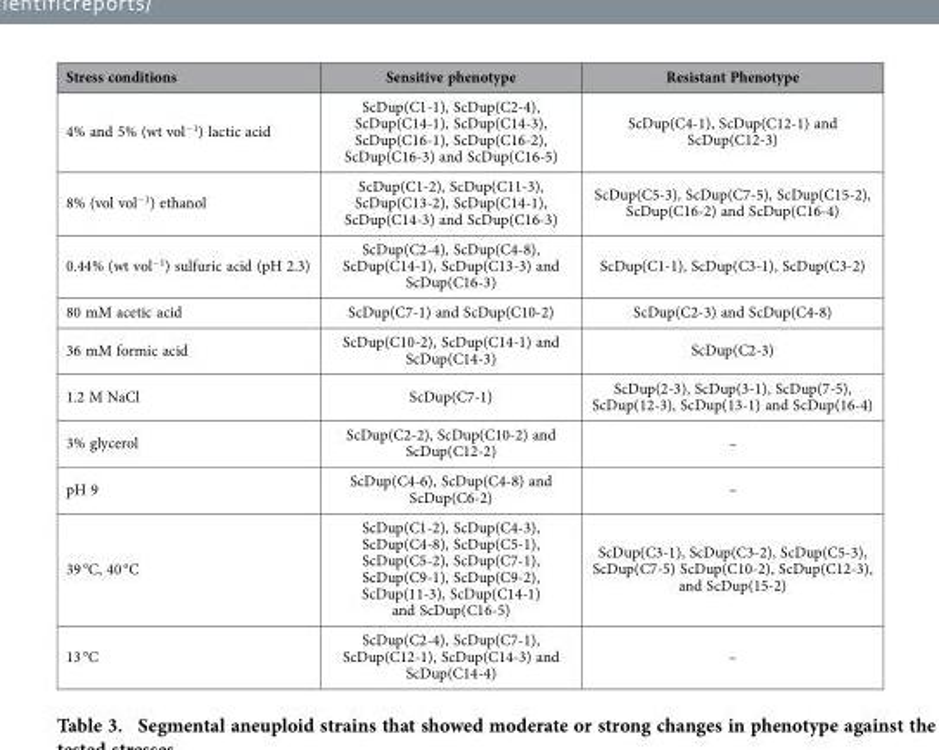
<table><thead><tr><td>Stress conditions</td><td>Sensitive phenotype</td><td>Resistant Phenotype</td></tr></thead><tbody><tr><td>4% and 5% (wt vol<sup>−1</sup>) lactic acid</td><td>ScDup(C1-1), ScDup(C2-4), ScDup(C14-1), ScDup(C14-3), ScDup(C16-1), ScDup(C16-2), ScDup(C16-3) and ScDup(C16-5)</td><td>ScDup(C4-1), ScDup(C12-1) and ScDup(C12-3)</td></tr><tr><td>8% (vol vol<sup>−1</sup>) ethanol</td><td>ScDup(C1-2), ScDup(C11-3), ScDup(C13-2), ScDup(C14-1), ScDup(C14-3) and ScDup(C16-3)</td><td>ScDup(C5-3), ScDup(C7-5), ScDup(C15-2), ScDup(C16-2) and ScDup(C16-4)</td></tr><tr><td>0.44% (wt vol<sup>−1</sup>) sulfuric acid (pH 2.3)</td><td>ScDup(C2-4), ScDup(C4-8), ScDup(C14-1), ScDup(C13-3) and ScDup(C16-3)</td><td>ScDup(C1-1), ScDup(C3-1), ScDup(C3-2)</td></tr><tr><td>80 mM acetic acid</td><td>ScDup(C7-1) and ScDup(C10-2)</td><td>ScDup(C2-3) and ScDup(C4-8)</td></tr><tr><td>36 mM formic acid</td><td>ScDup(C10-2), ScDup(C14-1) and ScDup(C14-3)</td><td>ScDup(C2-3)</td></tr><tr><td>1.2 M NaCl</td><td>ScDup(C7-1)</td><td>ScDup(2-3), ScDup(3-1), ScDup(7-5), ScDup(12-3), ScDup(13-1) and ScDup(16-4)</td></tr><tr><td>3% glycerol</td><td>ScDup(C2-2), ScDup(C10-2) and ScDup(C12-2)</td><td>–</td></tr><tr><td>pH 9</td><td>ScDup(C4-6), ScDup(C4-8) and ScDup(C6-2)</td><td>–</td></tr><tr><td>39 °C, 40 °C</td><td>ScDup(C1-2), ScDup(C4-3), ScDup(C4-8), ScDup(C5-1), ScDup(C5-2), ScDup(C7-1), ScDup(C9-1), ScDup(C9-2), ScDup(11-3), ScDup(C14-1) and ScDup(C16-5)</td><td>ScDup(C3-1), ScDup(C3-2), ScDup(C5-3), ScDup(C7-5) ScDup(C10-2), ScDup(C12-3), and ScDup(15-2)</td></tr><tr><td>13 °C</td><td>ScDup(C2-4), ScDup(C7-1), ScDup(C12-1), ScDup(C14-3) and ScDup(C14-4)</td><td>–</td></tr></tbody></table>